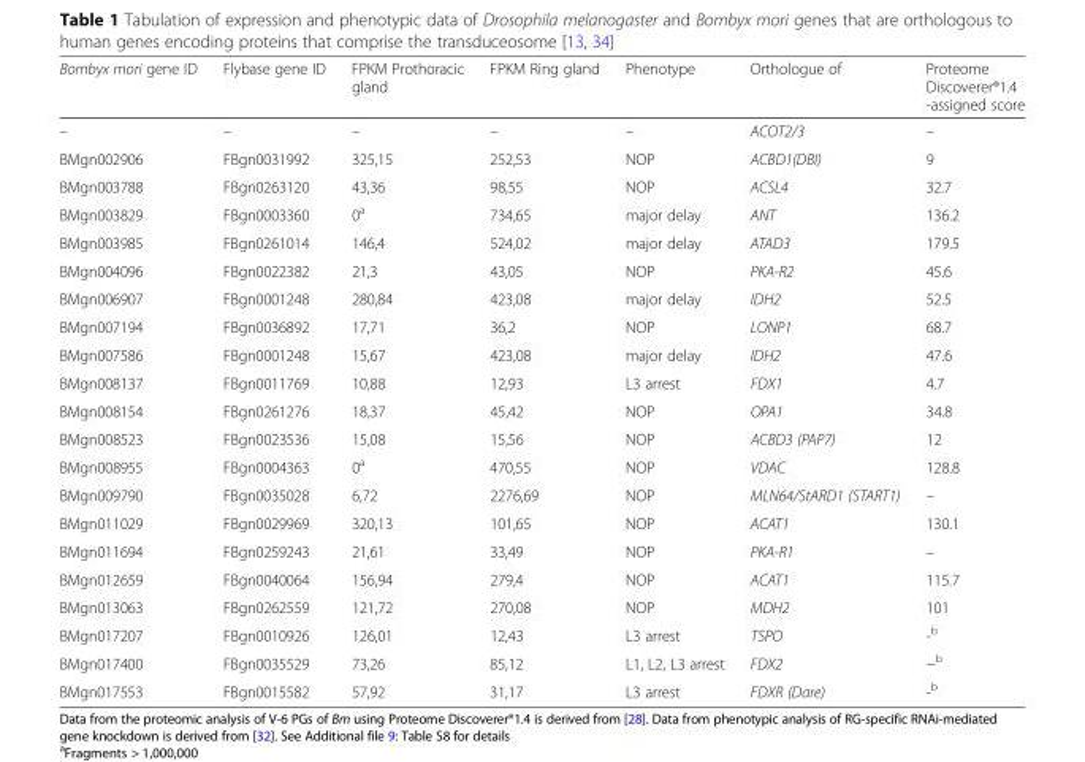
<table><thead><tr><td>Bombyx mori gene ID</td><td>Flybase gene ID</td><td>FPKM Prothoracic gland</td><td>FPKM Ring gland</td><td>Phenotype</td><td>Orthologue of</td><td>Proteome Discoverer®1.4 -assigned score</td></tr></thead><tbody><tr><td>–</td><td>–</td><td>–</td><td>–</td><td>–</td><td>ACOT2/3</td><td>–</td></tr><tr><td>BMgn002906</td><td>FBgn0031992</td><td>325,15</td><td>252,53</td><td>NOP</td><td>ACBD1(DBI)</td><td>9</td></tr><tr><td>BMgn003788</td><td>FBgn0263120</td><td>43,36</td><td>98,55</td><td>NOP</td><td>ACSL4</td><td>32.7</td></tr><tr><td>BMgn003829</td><td>FBgn0003360</td><td>0<sup>a</sup></td><td>734,65</td><td>major delay</td><td>ANT</td><td>136.2</td></tr><tr><td>BMgn003985</td><td>FBgn0261014</td><td>146,4</td><td>524,02</td><td>major delay</td><td>ATAD3</td><td>179.5</td></tr><tr><td>BMgn004096</td><td>FBgn0022382</td><td>21,3</td><td>43,05</td><td>NOP</td><td>PKA-R2</td><td>45.6</td></tr><tr><td>BMgn006907</td><td>FBgn0001248</td><td>280,84</td><td>423,08</td><td>major delay</td><td>IDH2</td><td>52.5</td></tr><tr><td>BMgn007194</td><td>FBgn0036892</td><td>17,71</td><td>36,2</td><td>NOP</td><td>LONP1</td><td>68.7</td></tr><tr><td>BMgn007586</td><td>FBgn0001248</td><td>15,67</td><td>423,08</td><td>major delay</td><td>IDH2</td><td>47.6</td></tr><tr><td>BMgn008137</td><td>FBgn0011769</td><td>10,88</td><td>12,93</td><td>L3 arrest</td><td>FDX1</td><td>4.7</td></tr><tr><td>BMgn008154</td><td>FBgn0261276</td><td>18,37</td><td>45,42</td><td>NOP</td><td>OPA1</td><td>34.8</td></tr><tr><td>BMgn008523</td><td>FBgn0023536</td><td>15,08</td><td>15,56</td><td>NOP</td><td>ACBD3 (PAP7)</td><td>12</td></tr><tr><td>BMgn008955</td><td>FBgn0004363</td><td>0<sup>a</sup></td><td>470,55</td><td>NOP</td><td>VDAC</td><td>128.8</td></tr><tr><td>BMgn009790</td><td>FBgn0035028</td><td>6,72</td><td>2276,69</td><td>NOP</td><td>MLN64/StARD1 (START1)</td><td>–</td></tr><tr><td>BMgn011029</td><td>FBgn0029969</td><td>320,13</td><td>101,65</td><td>NOP</td><td>ACAT1</td><td>130.1</td></tr><tr><td>BMgn011694</td><td>FBgn0259243</td><td>21,61</td><td>33,49</td><td>NOP</td><td>PKA-R1</td><td>–</td></tr><tr><td>BMgn012659</td><td>FBgn0040064</td><td>156,94</td><td>279,4</td><td>NOP</td><td>ACAT1</td><td>115.7</td></tr><tr><td>BMgn013063</td><td>FBgn0262559</td><td>121,72</td><td>270,08</td><td>NOP</td><td>MDH2</td><td>101</td></tr><tr><td>BMgn017207</td><td>FBgn0010926</td><td>126,01</td><td>12,43</td><td>L3 arrest</td><td>TSPO</td><td>-<sup>b</sup></td></tr><tr><td>BMgn017400</td><td>FBgn0035529</td><td>73,26</td><td>85,12</td><td>L1, L2, L3 arrest</td><td>FDX2</td><td>−<sup>b</sup></td></tr><tr><td>BMgn017553</td><td>FBgn0015582</td><td>57,92</td><td>31,17</td><td>L3 arrest</td><td>FDXR (Dare)</td><td>-<sup>b</sup></td></tr></tbody></table>